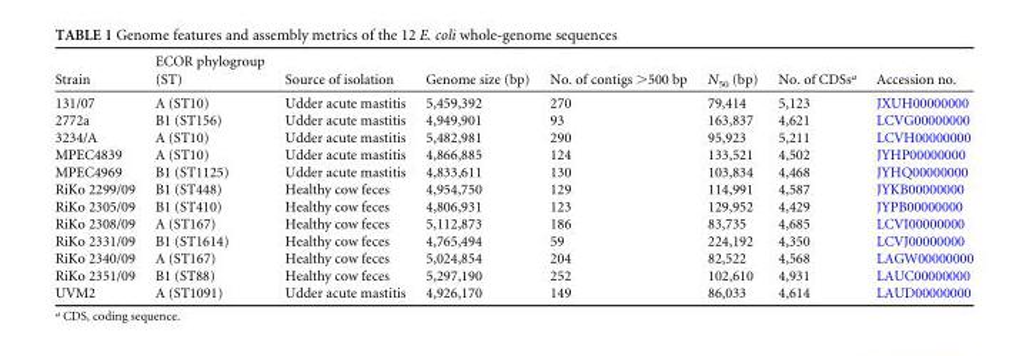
<table><thead><tr><td>Strain</td><td>ECOR phylogroup (ST)</td><td>Source of isolation</td><td>Genome size (bp)</td><td>No. of contigs &gt;500 bp</td><td>N<sub>50</sub> (bp)</td><td>No. of CDSs<sup>a</sup></td><td>Accession no.</td></tr></thead><tbody><tr><td>131/07</td><td>A (ST10)</td><td>Udder acute mastitis</td><td>5,459,392</td><td>270</td><td>79,414</td><td>5,123</td><td>JXUH00000000</td></tr><tr><td>2772a</td><td>B1 (ST156)</td><td>Udder acute mastitis</td><td>4,949,901</td><td>93</td><td>163,837</td><td>4,621</td><td>LCVG00000000</td></tr><tr><td>3234/A</td><td>A (ST10)</td><td>Udder acute mastitis</td><td>5,482,981</td><td>290</td><td>95,923</td><td>5,211</td><td>LCVH00000000</td></tr><tr><td>MPEC4839</td><td>A (ST10)</td><td>Udder acute mastitis</td><td>4,866,885</td><td>124</td><td>133,521</td><td>4,502</td><td>JYHP00000000</td></tr><tr><td>MPEC4969</td><td>B1 (ST1125)</td><td>Udder acute mastitis</td><td>4,833,611</td><td>130</td><td>103,834</td><td>4,468</td><td>JYHQ00000000</td></tr><tr><td>RiKo 2299/09</td><td>B1 (ST448)</td><td>Healthy cow feces</td><td>4,954,750</td><td>129</td><td>114,991</td><td>4,587</td><td>JYKB00000000</td></tr><tr><td>RiKo 2305/09</td><td>B1 (ST410)</td><td>Healthy cow feces</td><td>4,806,931</td><td>123</td><td>129,952</td><td>4,429</td><td>JYPB00000000</td></tr><tr><td>RiKo 2308/09</td><td>A (ST167)</td><td>Healthy cow feces</td><td>5,112,873</td><td>186</td><td>83,735</td><td>4,685</td><td>LCVI00000000</td></tr><tr><td>RiKo 2331/09</td><td>B1 (ST1614)</td><td>Healthy cow feces</td><td>4,765,494</td><td>59</td><td>224,192</td><td>4,350</td><td>LCVJ00000000</td></tr><tr><td>RiKo 2340/09</td><td>A (ST167)</td><td>Healthy cow feces</td><td>5,024,854</td><td>204</td><td>82,522</td><td>4,568</td><td>LAGW00000000</td></tr><tr><td>RiKo 2351/09</td><td>B1 (ST88)</td><td>Healthy cow feces</td><td>5,297,190</td><td>252</td><td>102,610</td><td>4,931</td><td>LAUC00000000</td></tr><tr><td>UVM2</td><td>A (ST1091)</td><td>Udder acute mastitis</td><td>4,926,170</td><td>149</td><td>86,033</td><td>4,614</td><td>LAUD00000000</td></tr></tbody></table>